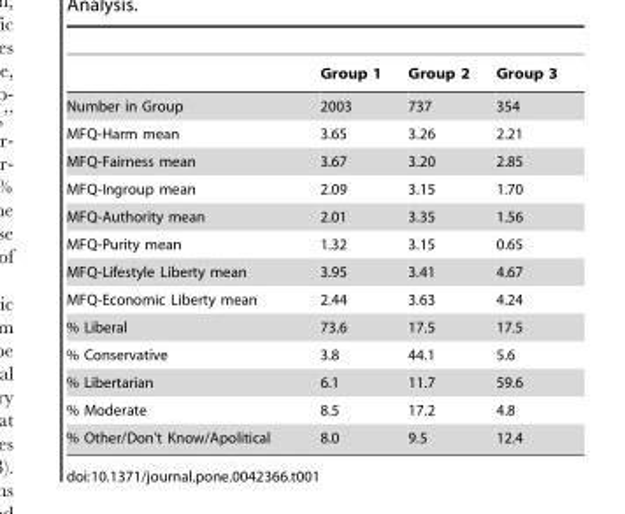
<table><thead><tr><td></td><td>Group 1</td><td>Group 2</td><td>Group 3</td></tr></thead><tbody><tr><td>Number in Group</td><td>2003</td><td>737</td><td>354</td></tr><tr><td>MFQ-Harm mean</td><td>3.65</td><td>3.26</td><td>2.21</td></tr><tr><td>MFQ-Fairness mean</td><td>3.67</td><td>3.20</td><td>2.85</td></tr><tr><td>MFQ-Ingroup mean</td><td>2.09</td><td>3.15</td><td>1.70</td></tr><tr><td>MFQ-Authority mean</td><td>2.01</td><td>3.35</td><td>1.56</td></tr><tr><td>MFQ-Purity mean</td><td>1.32</td><td>3.15</td><td>0.65</td></tr><tr><td>MFQ-Lifestyle Liberty mean</td><td>3.95</td><td>3.41</td><td>4.67</td></tr><tr><td>MFQ-Economic Liberty mean</td><td>2.44</td><td>3.63</td><td>4.24</td></tr><tr><td>% Liberal</td><td>73.6</td><td>17.5</td><td>17.5</td></tr><tr><td>% Conservative</td><td>3.8</td><td>44.1</td><td>5.6</td></tr><tr><td>% Libertarian</td><td>6.1</td><td>11.7</td><td>59.6</td></tr><tr><td>% Moderate</td><td>8.5</td><td>17.2</td><td>4.8</td></tr><tr><td>% Other/Don’t Know/Apolitical</td><td>8.0</td><td>9.5</td><td>12.4</td></tr></tbody></table>